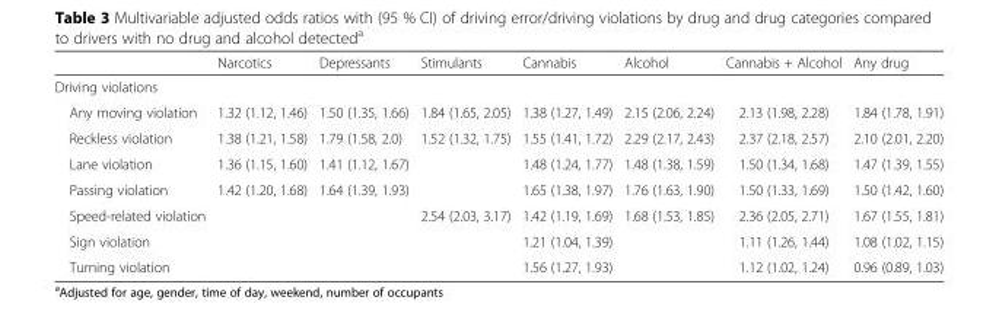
<table><thead><tr><td></td><td>Narcotics</td><td>Depressants</td><td>Stimulants</td><td>Cannabis</td><td>Alcohol</td><td>Cannabis + Alcohol</td><td>Any drug</td></tr></thead><tbody><tr><td colspan="8">Driving violations</td></tr><tr><td>Any moving violation</td><td>1.32 (1.12, 1.46)</td><td>1.50 (1.35, 1.66)</td><td>1.84 (1.65, 2.05)</td><td>1.38 (1.27, 1.49)</td><td>2.15 (2.06, 2.24)</td><td>2.13 (1.98, 2.28)</td><td>1.84 (1.78, 1.91)</td></tr><tr><td>Reckless violation</td><td>1.38 (1.21, 1.58)</td><td>1.79 (1.58, 2.0)</td><td>1.52 (1.32, 1.75)</td><td>1.55 (1.41, 1.72)</td><td>2.29 (2.17, 2.43)</td><td>2.37 (2.18, 2.57)</td><td>2.10 (2.01, 2.20)</td></tr><tr><td>Lane violation</td><td>1.36 (1.15, 1.60)</td><td>1.41 (1.12, 1.67)</td><td></td><td>1.48 (1.24, 1.77)</td><td>1.48 (1.38, 1.59)</td><td>1.50 (1.34, 1.68)</td><td>1.47 (1.39, 1.55)</td></tr><tr><td>Passing violation</td><td>1.42 (1.20, 1.68)</td><td>1.64 (1.39, 1.93)</td><td></td><td>1.65 (1.38, 1.97)</td><td>1.76 (1.63, 1.90)</td><td>1.50 (1.33, 1.69)</td><td>1.50 (1.42, 1.60)</td></tr><tr><td>Speed-related violation</td><td></td><td></td><td>2.54 (2.03, 3.17)</td><td>1.42 (1.19, 1.69)</td><td>1.68 (1.53, 1.85)</td><td>2.36 (2.05, 2.71)</td><td>1.67 (1.55, 1.81)</td></tr><tr><td>Sign violation</td><td></td><td></td><td></td><td>1.21 (1.04, 1.39)</td><td></td><td>1.11 (1.26, 1.44)</td><td>1.08 (1.02, 1.15)</td></tr><tr><td>Turning violation</td><td></td><td></td><td></td><td>1.56 (1.27, 1.93)</td><td></td><td>1.12 (1.02, 1.24)</td><td>0.96 (0.89, 1.03)</td></tr></tbody></table>